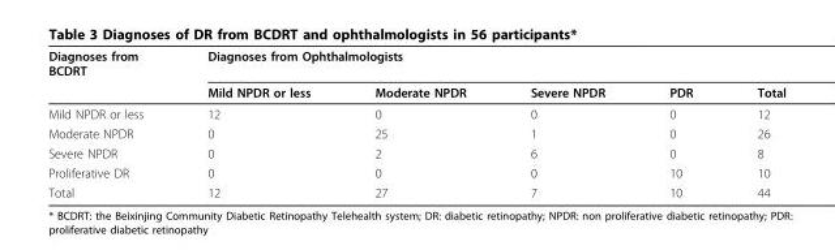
<table><thead><tr><td rowspan="2">Diagnoses from BCDRT</td><td colspan="5">Diagnoses from Ophthalmologists</td></tr><tr><td>Mild NPDR or less</td><td>Moderate NPDR</td><td>Severe NPDR</td><td>PDR</td><td>Total</td></tr></thead><tbody><tr><td>Mild NPDR or less</td><td>12</td><td>0</td><td>0</td><td>0</td><td>12</td></tr><tr><td>Moderate NPDR</td><td>0</td><td>25</td><td>1</td><td>0</td><td>26</td></tr><tr><td>Severe NPDR</td><td>0</td><td>2</td><td>6</td><td>0</td><td>8</td></tr><tr><td>Proliferative DR</td><td>0</td><td>0</td><td>0</td><td>10</td><td>10</td></tr><tr><td>Total</td><td>12</td><td>27</td><td>7</td><td>10</td><td>44</td></tr></tbody></table>